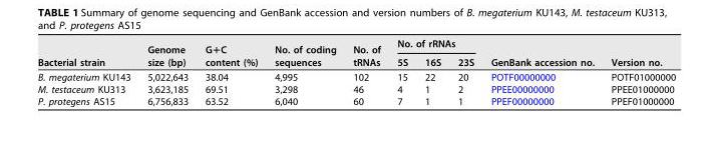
<table><thead><tr><td rowspan="2">Bacterial strain</td><td rowspan="2">Genome size (bp)</td><td rowspan="2">G+C content (%)</td><td rowspan="2">No. of coding sequences</td><td rowspan="2">No. of tRNAs</td><td colspan="3">No. of rRNAs</td><td rowspan="2">GenBank accession no.</td><td rowspan="2">Version no.</td></tr><tr><td>5S</td><td>16S</td><td>23S</td></tr></thead><tbody><tr><td>B. megaterium KU143</td><td>5,022,643</td><td>38.04</td><td>4,995</td><td>102</td><td>15</td><td>22</td><td>20</td><td>POTF00000000</td><td>POTF01000000</td></tr><tr><td>M. testaceum KU313</td><td>3,623,185</td><td>69.51</td><td>3,298</td><td>46</td><td>4</td><td>1</td><td>2</td><td>PPEE00000000</td><td>PPEE01000000</td></tr><tr><td>P. protegens AS15</td><td>6,756,833</td><td>63.52</td><td>6,040</td><td>60</td><td>7</td><td>1</td><td>1</td><td>PPEF00000000</td><td>PPEF01000000</td></tr></tbody></table>